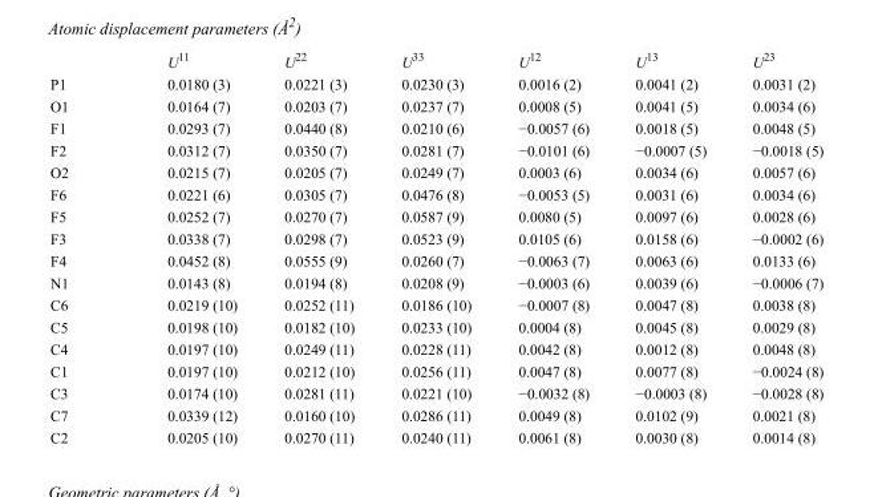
<table><thead><tr><td></td><td>U<sup>11</sup></td><td>U<sup>22</sup></td><td>U<sup>33</sup></td><td>U<sup>12</sup></td><td>U<sup>13</sup></td><td>U<sup>23</sup></td></tr></thead><tbody><tr><td>P1</td><td>0.0180 (3)</td><td>0.0221 (3)</td><td>0.0230 (3)</td><td>0.0016 (2)</td><td>0.0041 (2)</td><td>0.0031 (2)</td></tr><tr><td>O1</td><td>0.0164 (7)</td><td>0.0203 (7)</td><td>0.0237 (7)</td><td>0.0008 (5)</td><td>0.0041 (5)</td><td>0.0034 (6)</td></tr><tr><td>F1</td><td>0.0293 (7)</td><td>0.0440 (8)</td><td>0.0210 (6)</td><td>−0.0057 (6)</td><td>0.0018 (5)</td><td>0.0048 (5)</td></tr><tr><td>F2</td><td>0.0312 (7)</td><td>0.0350 (7)</td><td>0.0281 (7)</td><td>−0.0101 (6)</td><td>−0.0007 (5)</td><td>−0.0018 (5)</td></tr><tr><td>O2</td><td>0.0215 (7)</td><td>0.0205 (7)</td><td>0.0249 (7)</td><td>0.0003 (6)</td><td>0.0034 (6)</td><td>0.0057 (6)</td></tr><tr><td>F6</td><td>0.0221 (6)</td><td>0.0305 (7)</td><td>0.0476 (8)</td><td>−0.0053 (5)</td><td>0.0031 (6)</td><td>0.0034 (6)</td></tr><tr><td>F5</td><td>0.0252 (7)</td><td>0.0270 (7)</td><td>0.0587 (9)</td><td>0.0080 (5)</td><td>0.0097 (6)</td><td>0.0028 (6)</td></tr><tr><td>F3</td><td>0.0338 (7)</td><td>0.0298 (7)</td><td>0.0523 (9)</td><td>0.0105 (6)</td><td>0.0158 (6)</td><td>−0.0002 (6)</td></tr><tr><td>F4</td><td>0.0452 (8)</td><td>0.0555 (9)</td><td>0.0260 (7)</td><td>−0.0063 (7)</td><td>0.0063 (6)</td><td>0.0133 (6)</td></tr><tr><td>N1</td><td>0.0143 (8)</td><td>0.0194 (8)</td><td>0.0208 (9)</td><td>−0.0003 (6)</td><td>0.0039 (6)</td><td>−0.0006 (7)</td></tr><tr><td>C6</td><td>0.0219 (10)</td><td>0.0252 (11)</td><td>0.0186 (10)</td><td>−0.0007 (8)</td><td>0.0047 (8)</td><td>0.0038 (8)</td></tr><tr><td>C5</td><td>0.0198 (10)</td><td>0.0182 (10)</td><td>0.0233 (10)</td><td>0.0004 (8)</td><td>0.0045 (8)</td><td>0.0029 (8)</td></tr><tr><td>C4</td><td>0.0197 (10)</td><td>0.0249 (11)</td><td>0.0228 (11)</td><td>0.0042 (8)</td><td>0.0012 (8)</td><td>0.0048 (8)</td></tr><tr><td>C1</td><td>0.0197 (10)</td><td>0.0212 (10)</td><td>0.0256 (11)</td><td>0.0047 (8)</td><td>0.0077 (8)</td><td>−0.0024 (8)</td></tr><tr><td>C3</td><td>0.0174 (10)</td><td>0.0281 (11)</td><td>0.0221 (10)</td><td>−0.0032 (8)</td><td>−0.0003 (8)</td><td>−0.0028 (8)</td></tr><tr><td>C7</td><td>0.0339 (12)</td><td>0.0160 (10)</td><td>0.0286 (11)</td><td>0.0049 (8)</td><td>0.0102 (9)</td><td>0.0021 (8)</td></tr><tr><td>C2</td><td>0.0205 (10)</td><td>0.0270 (11)</td><td>0.0240 (11)</td><td>0.0061 (8)</td><td>0.0030 (8)</td><td>0.0014 (8)</td></tr></tbody></table>